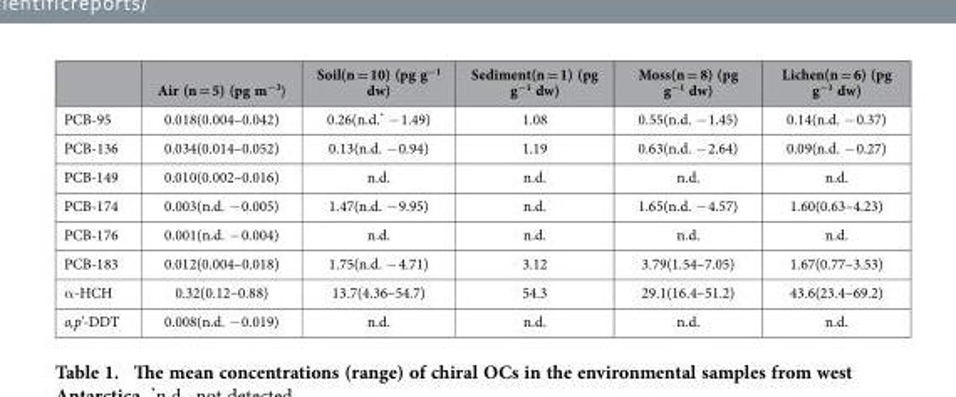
<table><thead><tr><td></td><td>Air (n = 5) (pg m<sup>−3</sup>)</td><td>Soil(n = 10) (pg g<sup>−1</sup> dw)</td><td>Sediment(n = 1) (pg g<sup>−1</sup> dw)</td><td>Moss(n = 8) (pg g<sup>−1</sup> dw)</td><td>Lichen(n = 6) (pg g<sup>−1</sup> dw)</td></tr></thead><tbody><tr><td>PCB-95</td><td>0.018(0.004–0.042)</td><td>0.26(n.d.* − 1.49)</td><td>1.08</td><td>0.55(n.d. − 1.45)</td><td>0.14(n.d. − 0.37)</td></tr><tr><td>PCB-136</td><td>0.034(0.014–0.052)</td><td>0.13(n.d. − 0.94)</td><td>1.19</td><td>0.63(n.d. − 2.64)</td><td>0.09(n.d. − 0.27)</td></tr><tr><td>PCB-149</td><td>0.010(0.002–0.016)</td><td>n.d.</td><td>n.d.</td><td>n.d.</td><td>n.d.</td></tr><tr><td>PCB-174</td><td>0.003(n.d. − 0.005)</td><td>1.47(n.d. − 9.95)</td><td>n.d.</td><td>1.65(n.d. − 4.57)</td><td>1.60(0.63–4.23)</td></tr><tr><td>PCB-176</td><td>0.001(n.d. − 0.004)</td><td>n.d.</td><td>n.d.</td><td>n.d.</td><td>n.d.</td></tr><tr><td>PCB-183</td><td>0.012(0.004–0.018)</td><td>1.75(n.d. − 4.71)</td><td>3.12</td><td>3.79(1.54–7.05)</td><td>1.67(0.77–3.53)</td></tr><tr><td>α -HCH</td><td>0.32(0.12–0.88)</td><td>13.7(4.36–54.7)</td><td>54.3</td><td>29.1(16.4–51.2)</td><td>43.6(23.4–69.2)</td></tr><tr><td>o,p’-DDT</td><td>0.008(n.d. − 0.019)</td><td>n.d.</td><td>n.d.</td><td>n.d.</td><td>n.d.</td></tr></tbody></table>